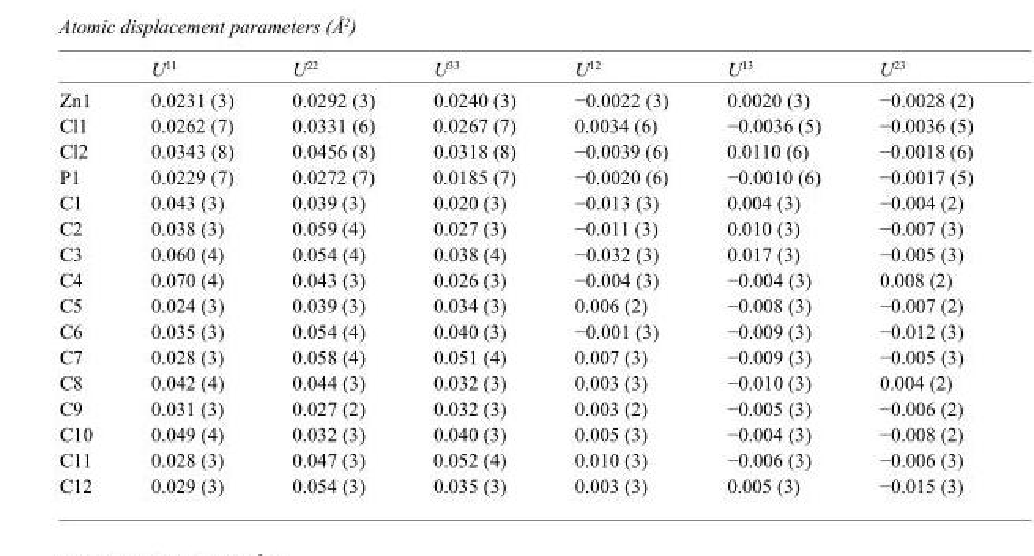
<table><thead><tr><td></td><td>U<sup>11</sup></td><td>U<sup>22</sup></td><td>U<sup>33</sup></td><td>U<sup>12</sup></td><td>U<sup>13</sup></td><td>U<sup>23</sup></td></tr></thead><tbody><tr><td>Zn1</td><td>0.0231 (3)</td><td>0.0292 (3)</td><td>0.0240 (3)</td><td>−0.0022 (3)</td><td>0.0020 (3)</td><td>−0.0028 (2)</td></tr><tr><td>Cl1</td><td>0.0262 (7)</td><td>0.0331 (6)</td><td>0.0267 (7)</td><td>0.0034 (6)</td><td>−0.0036 (5)</td><td>−0.0036 (5)</td></tr><tr><td>Cl2</td><td>0.0343 (8)</td><td>0.0456 (8)</td><td>0.0318 (8)</td><td>−0.0039 (6)</td><td>0.0110 (6)</td><td>−0.0018 (6)</td></tr><tr><td>P1</td><td>0.0229 (7)</td><td>0.0272 (7)</td><td>0.0185 (7)</td><td>−0.0020 (6)</td><td>−0.0010 (6)</td><td>−0.0017 (5)</td></tr><tr><td>C1</td><td>0.043 (3)</td><td>0.039 (3)</td><td>0.020 (3)</td><td>−0.013 (3)</td><td>0.004 (3)</td><td>−0.004 (2)</td></tr><tr><td>C2</td><td>0.038 (3)</td><td>0.059 (4)</td><td>0.027 (3)</td><td>−0.011 (3)</td><td>0.010 (3)</td><td>−0.007 (3)</td></tr><tr><td>C3</td><td>0.060 (4)</td><td>0.054 (4)</td><td>0.038 (4)</td><td>−0.032 (3)</td><td>0.017 (3)</td><td>−0.005 (3)</td></tr><tr><td>C4</td><td>0.070 (4)</td><td>0.043 (3)</td><td>0.026 (3)</td><td>−0.004 (3)</td><td>−0.004 (3)</td><td>0.008 (2)</td></tr><tr><td>C5</td><td>0.024 (3)</td><td>0.039 (3)</td><td>0.034 (3)</td><td>0.006 (2)</td><td>−0.008 (3)</td><td>−0.007 (2)</td></tr><tr><td>C6</td><td>0.035 (3)</td><td>0.054 (4)</td><td>0.040 (3)</td><td>−0.001 (3)</td><td>−0.009 (3)</td><td>−0.012 (3)</td></tr><tr><td>C7</td><td>0.028 (3)</td><td>0.058 (4)</td><td>0.051 (4)</td><td>0.007 (3)</td><td>−0.009 (3)</td><td>−0.005 (3)</td></tr><tr><td>C8</td><td>0.042 (4)</td><td>0.044 (3)</td><td>0.032 (3)</td><td>0.003 (3)</td><td>−0.010 (3)</td><td>0.004 (2)</td></tr><tr><td>C9</td><td>0.031 (3)</td><td>0.027 (2)</td><td>0.032 (3)</td><td>0.003 (2)</td><td>−0.005 (3)</td><td>−0.006 (2)</td></tr><tr><td>C10</td><td>0.049 (4)</td><td>0.032 (3)</td><td>0.040 (3)</td><td>0.005 (3)</td><td>−0.004 (3)</td><td>−0.008 (2)</td></tr><tr><td>C11</td><td>0.028 (3)</td><td>0.047 (3)</td><td>0.052 (4)</td><td>0.010 (3)</td><td>−0.006 (3)</td><td>−0.006 (3)</td></tr><tr><td>C12</td><td>0.029 (3)</td><td>0.054 (3)</td><td>0.035 (3)</td><td>0.003 (3)</td><td>0.005 (3)</td><td>−0.015 (3)</td></tr></tbody></table>